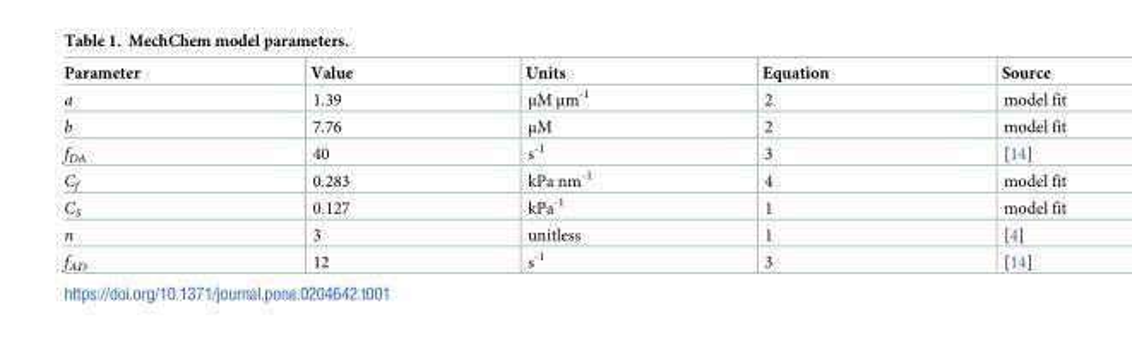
<table><thead><tr><td>Parameter</td><td>Value</td><td>Units</td><td>Equation</td><td>Source</td></tr></thead><tbody><tr><td>a</td><td>1.39</td><td>μM μm<sup>-1</sup></td><td>2</td><td>model fit</td></tr><tr><td>b</td><td>7.76</td><td>μM</td><td>2</td><td>model fit</td></tr><tr><td>f<sub>DA</sub></td><td>40</td><td>s<sup>-1</sup></td><td>3</td><td>[14]</td></tr><tr><td>C<sub>f</sub></td><td>0.283</td><td>kPa nm<sup>-1</sup></td><td>4</td><td>model fit</td></tr><tr><td>C<sub>S</sub></td><td>0.127</td><td>kPa<sup>-1</sup></td><td>1</td><td>model fit</td></tr><tr><td>n</td><td>3</td><td>unitless</td><td>1</td><td>[4]</td></tr><tr><td>f<sub>AD</sub></td><td>12</td><td>s<sup>-1</sup></td><td>3</td><td>[14]</td></tr></tbody></table>